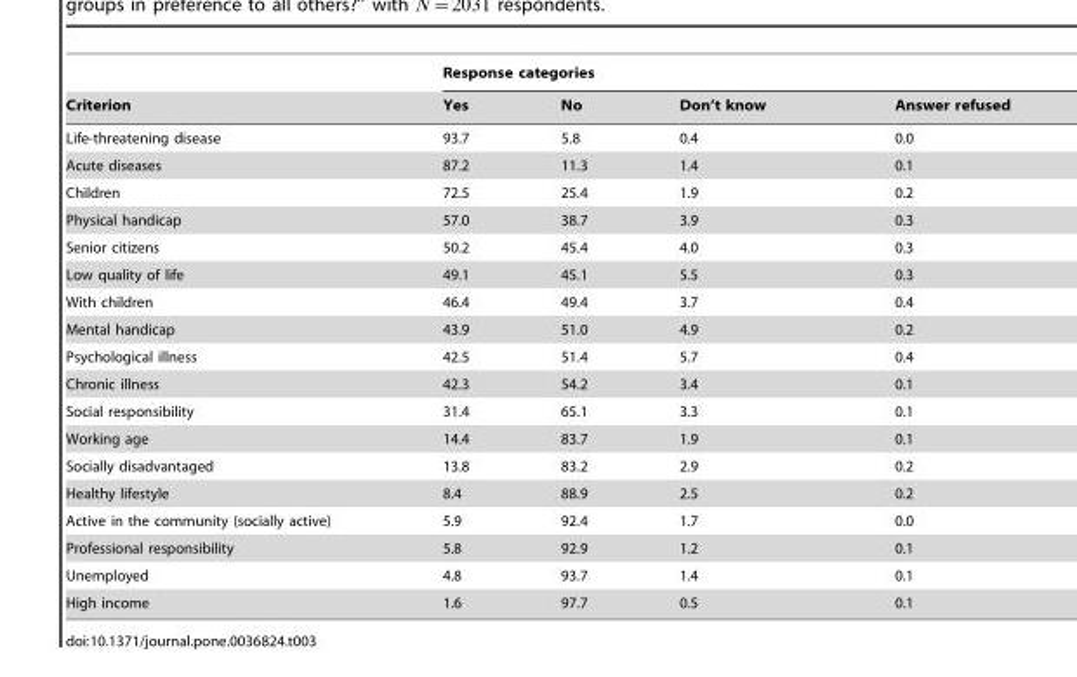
<table><thead><tr><td rowspan="2">Criterion</td><td colspan="4">Response categories</td></tr><tr><td>Yes</td><td>No</td><td>Don’t know</td><td>Answer refused</td></tr></thead><tbody><tr><td>Life-threatening disease</td><td>93.7</td><td>5.8</td><td>0.4</td><td>0.0</td></tr><tr><td>Acute diseases</td><td>87.2</td><td>11.3</td><td>1.4</td><td>0.1</td></tr><tr><td>Children</td><td>72.5</td><td>25.4</td><td>1.9</td><td>0.2</td></tr><tr><td>Physical handicap</td><td>57.0</td><td>38.7</td><td>3.9</td><td>0.3</td></tr><tr><td>Senior citizens</td><td>50.2</td><td>45.4</td><td>4.0</td><td>0.3</td></tr><tr><td>Low quality of life</td><td>49.1</td><td>45.1</td><td>5.5</td><td>0.3</td></tr><tr><td>With children</td><td>46.4</td><td>49.4</td><td>3.7</td><td>0.4</td></tr><tr><td>Mental handicap</td><td>43.9</td><td>51.0</td><td>4.9</td><td>0.2</td></tr><tr><td>Psychological illness</td><td>42.5</td><td>51.4</td><td>5.7</td><td>0.4</td></tr><tr><td>Chronic illness</td><td>42.3</td><td>54.2</td><td>3.4</td><td>0.1</td></tr><tr><td>Social responsibility</td><td>31.4</td><td>65.1</td><td>3.3</td><td>0.1</td></tr><tr><td>Working age</td><td>14.4</td><td>83.7</td><td>1.9</td><td>0.1</td></tr><tr><td>Socially disadvantaged</td><td>13.8</td><td>83.2</td><td>2.9</td><td>0.2</td></tr><tr><td>Healthy lifestyle</td><td>8.4</td><td>88.9</td><td>2.5</td><td>0.2</td></tr><tr><td>Active in the community (socially active)</td><td>5.9</td><td>92.4</td><td>1.7</td><td>0.0</td></tr><tr><td>Professional responsibility</td><td>5.8</td><td>92.9</td><td>1.2</td><td>0.1</td></tr><tr><td>Unemployed</td><td>4.8</td><td>93.7</td><td>1.4</td><td>0.1</td></tr><tr><td>High income</td><td>1.6</td><td>97.7</td><td>0.5</td><td>0.1</td></tr></tbody></table>